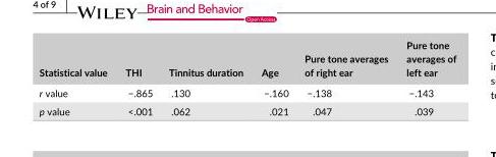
<table><thead><tr><td>Statistical value</td><td>THI</td><td>Tinnitus duration</td><td>Age</td><td>Pure tone averages of right ear</td><td>Pure tone averages of left ear</td></tr></thead><tbody><tr><td>r value</td><td>−.865</td><td>.130</td><td>−.160</td><td>−.138</td><td>−.143</td></tr><tr><td>p value</td><td>&lt;.001</td><td>.062</td><td>.021</td><td>.047</td><td>.039</td></tr></tbody></table>